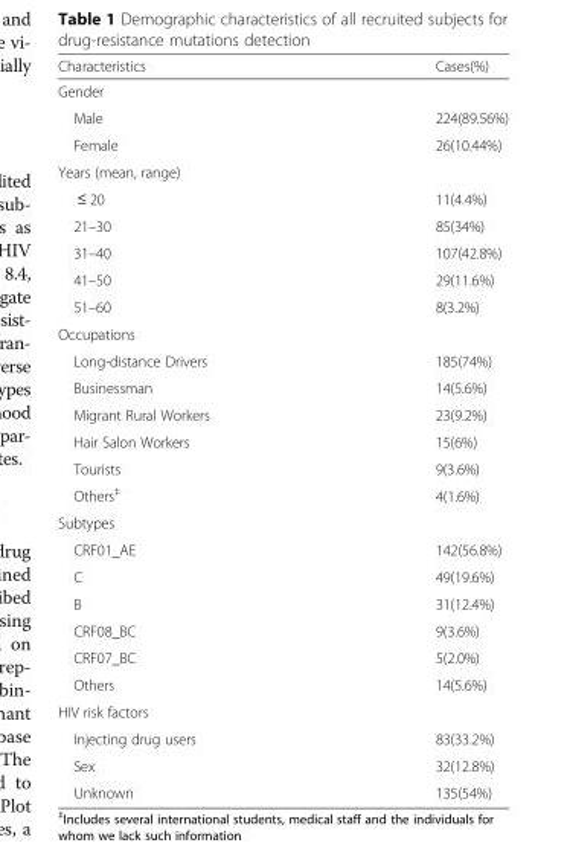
<table><thead><tr><td>Characteristics</td><td>Cases(%)</td></tr></thead><tbody><tr><td colspan="2">Gender</td></tr><tr><td>Male</td><td>224(89.56%)</td></tr><tr><td>Female</td><td>26(10.44%)</td></tr><tr><td colspan="2">Years (mean, range)</td></tr><tr><td>≤ 20</td><td>11(4.4%)</td></tr><tr><td>21–30</td><td>85(34%)</td></tr><tr><td>31–40</td><td>107(42.8%)</td></tr><tr><td>41–50</td><td>29(11.6%)</td></tr><tr><td>51–60</td><td>8(3.2%)</td></tr><tr><td colspan="2">Occupations</td></tr><tr><td>Long-distance Drivers</td><td>185(74%)</td></tr><tr><td>Businessman</td><td>14(5.6%)</td></tr><tr><td>Migrant Rural Workers</td><td>23(9.2%)</td></tr><tr><td>Hair Salon Workers</td><td>15(6%)</td></tr><tr><td>Tourists</td><td>9(3.6%)</td></tr><tr><td>Others<sup>‡</sup></td><td>4(1.6%)</td></tr><tr><td colspan="2">Subtypes</td></tr><tr><td>CRF01_AE</td><td>142(56.8%)</td></tr><tr><td>C</td><td>49(19.6%)</td></tr><tr><td>B</td><td>31(12.4%)</td></tr><tr><td>CRF08_BC</td><td>9(3.6%)</td></tr><tr><td>CRF07_BC</td><td>5(2.0%)</td></tr><tr><td>Others</td><td>14(5.6%)</td></tr><tr><td colspan="2">HIV risk factors</td></tr><tr><td>Injecting drug users</td><td>83(33.2%)</td></tr><tr><td>Sex</td><td>32(12.8%)</td></tr><tr><td>Unknown</td><td>135(54%)</td></tr></tbody></table>